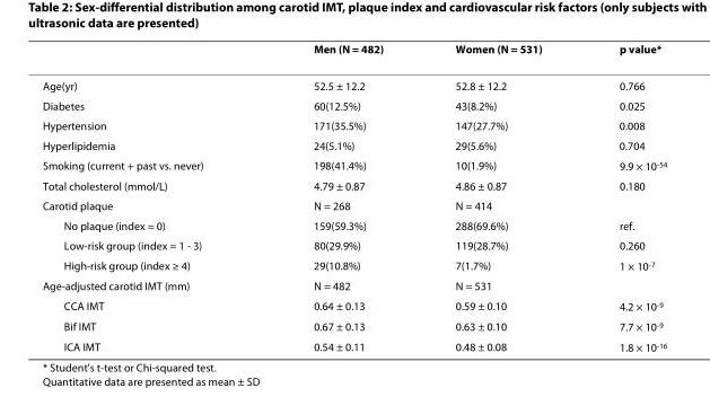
<table><thead><tr><td></td><td>Men (N = 482)</td><td>Women (N = 531)</td><td>p value*</td></tr></thead><tbody><tr><td>Age(yr)</td><td>52.5 ± 12.2</td><td>52.8 ± 12.2</td><td>0.766</td></tr><tr><td>Diabetes</td><td>60(12.5%)</td><td>43(8.2%)</td><td>0.025</td></tr><tr><td>Hypertension</td><td>171(35.5%)</td><td>147(27.7%)</td><td>0.008</td></tr><tr><td>Hyperlipidemia</td><td>24(5.1%)</td><td>29(5.6%)</td><td>0.704</td></tr><tr><td>Smoking (current + past vs. never)</td><td>198(41.4%)</td><td>10(1.9%)</td><td>9.9 × 10<sup>-54</sup></td></tr><tr><td>Total cholesterol (mmol/L)</td><td>4.79 ± 0.87</td><td>4.86 ± 0.87</td><td>0.180</td></tr><tr><td>Carotid plaque</td><td>N = 268</td><td>N = 414</td><td></td></tr><tr><td>No plaque (index = 0)</td><td>159(59.3%)</td><td>288(69.6%)</td><td>ref.</td></tr><tr><td>Low-risk group (index = 1 - 3)</td><td>80(29.9%)</td><td>119(28.7%)</td><td>0.260</td></tr><tr><td>High-risk group (index ≥ 4)</td><td>29(10.8%)</td><td>7(1.7%)</td><td>1 × 10<sup>-7</sup></td></tr><tr><td>Age-adjusted carotid IMT (mm)</td><td>N = 482</td><td>N = 531</td><td></td></tr><tr><td>CCA IMT</td><td>0.64 ± 0.13</td><td>0.59 ± 0.10</td><td>4.2 × 10<sup>-9</sup></td></tr><tr><td>Bif IMT</td><td>0.67 ± 0.13</td><td>0.63 ± 0.10</td><td>7.7 × 10<sup>-9</sup></td></tr><tr><td>ICA IMT</td><td>0.54 ± 0.11</td><td>0.48 ± 0.08</td><td>1.8 × 10<sup>-16</sup></td></tr></tbody></table>